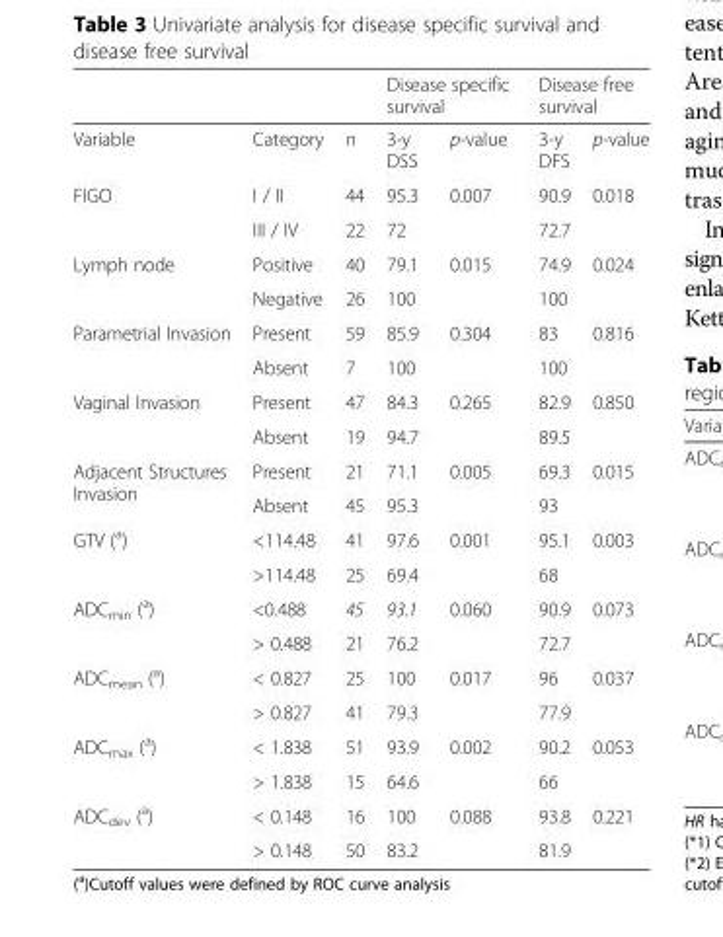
<table><thead><tr><td rowspan="2">Variable</td><td rowspan="2">Category</td><td rowspan="2">n</td><td colspan="2">Disease specific survival</td><td colspan="2">Disease free survival</td></tr><tr><td>3-y DSS</td><td>p-value</td><td>3-y DFS</td><td>p-value</td></tr></thead><tbody><tr><td rowspan="2">FIGO</td><td>I / II</td><td>44</td><td>95.3</td><td rowspan="2">0.007</td><td>90.9</td><td rowspan="2">0.018</td></tr><tr><td>III / IV</td><td>22</td><td>72</td><td>72.7</td></tr><tr><td rowspan="2">Lymph node</td><td>Positive</td><td>40</td><td>79.1</td><td rowspan="2">0.015</td><td>74.9</td><td rowspan="2">0.024</td></tr><tr><td>Negative</td><td>26</td><td>100</td><td>100</td></tr><tr><td rowspan="2">Parametrial Invasion</td><td>Present</td><td>59</td><td>85.9</td><td rowspan="2">0.304</td><td>83</td><td rowspan="2">0.816</td></tr><tr><td>Absent</td><td>7</td><td>100</td><td>100</td></tr><tr><td rowspan="2">Vaginal Invasion</td><td>Present</td><td>47</td><td>84.3</td><td rowspan="2">0.265</td><td>82.9</td><td rowspan="2">0.850</td></tr><tr><td>Absent</td><td>19</td><td>94.7</td><td>89.5</td></tr><tr><td rowspan="2">Adjacent Structures Invasion</td><td>Present</td><td>21</td><td>71.1</td><td rowspan="2">0.005</td><td>69.3</td><td rowspan="2">0.015</td></tr><tr><td>Absent</td><td>45</td><td>95.3</td><td>93</td></tr><tr><td rowspan="2">GTV (<sup>a</sup>)</td><td>&lt;114.48</td><td>41</td><td>97.6</td><td rowspan="2">0.001</td><td>95.1</td><td rowspan="2">0.003</td></tr><tr><td>&gt;114.48</td><td>25</td><td>69.4</td><td>68</td></tr><tr><td rowspan="2">ADC<sub>min</sub> (<sup>a</sup>)</td><td>&lt;0.488</td><td>45</td><td>93.1</td><td rowspan="2">0.060</td><td>90.9</td><td rowspan="2">0.073</td></tr><tr><td>&gt; 0.488</td><td>21</td><td>76.2</td><td>72.7</td></tr><tr><td rowspan="2">ADC<sub>mean</sub> (<sup>a</sup>)</td><td>&lt; 0.827</td><td>25</td><td>100</td><td rowspan="2">0.017</td><td>96</td><td rowspan="2">0.037</td></tr><tr><td>&gt; 0.827</td><td>41</td><td>79.3</td><td>77.9</td></tr><tr><td rowspan="2">ADC<sub>max</sub> (<sup>a</sup>)</td><td>&lt; 1.838</td><td>51</td><td>93.9</td><td rowspan="2">0.002</td><td>90.2</td><td rowspan="2">0.053</td></tr><tr><td>&gt; 1.838</td><td>15</td><td>64.6</td><td>66</td></tr><tr><td rowspan="2">ADC<sub>dev</sub> (<sup>a</sup>)</td><td>&lt; 0.148</td><td>16</td><td>100</td><td rowspan="2">0.088</td><td>93.8</td><td rowspan="2">0.221</td></tr><tr><td>&gt; 0.148</td><td>50</td><td>83.2</td><td>81.9</td></tr></tbody></table>